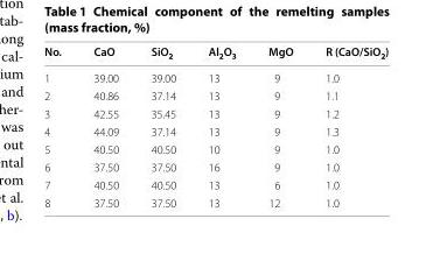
<table><thead><tr><td>No.</td><td>CaO</td><td>SiO<sub>2</sub></td><td>Al<sub>2</sub>O<sub>3</sub></td><td>MgO</td><td>R (CaO/SiO<sub>2</sub>)</td></tr></thead><tbody><tr><td>1</td><td>39.00</td><td>39.00</td><td>13</td><td>9</td><td>1.0</td></tr><tr><td>2</td><td>40.86</td><td>37.14</td><td>13</td><td>9</td><td>1.1</td></tr><tr><td>3</td><td>42.55</td><td>35.45</td><td>13</td><td>9</td><td>1.2</td></tr><tr><td>4</td><td>44.09</td><td>37.14</td><td>13</td><td>9</td><td>1.3</td></tr><tr><td>5</td><td>40.50</td><td>40.50</td><td>10</td><td>9</td><td>1.0</td></tr><tr><td>6</td><td>37.50</td><td>37.50</td><td>16</td><td>9</td><td>1.0</td></tr><tr><td>7</td><td>40.50</td><td>40.50</td><td>13</td><td>6</td><td>1.0</td></tr><tr><td>8</td><td>37.50</td><td>37.50</td><td>13</td><td>12</td><td>1.0</td></tr></tbody></table>